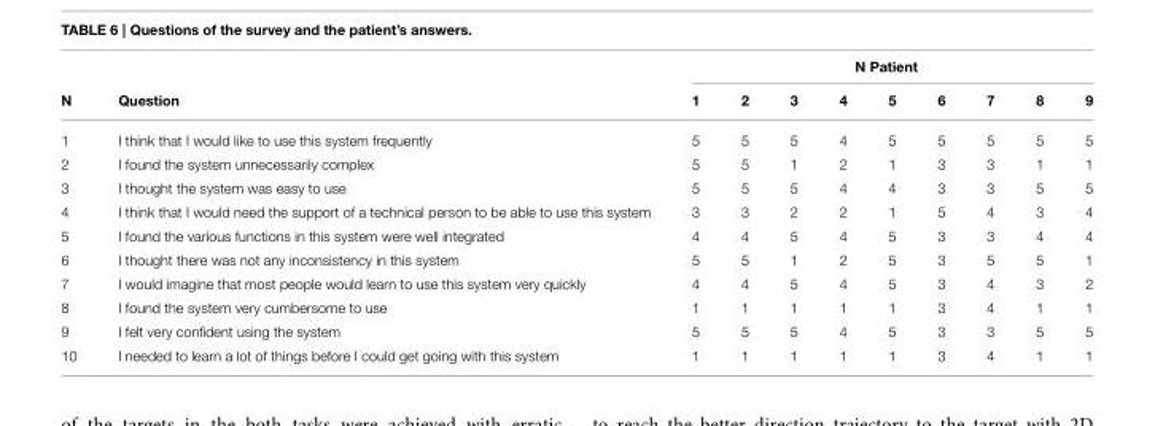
<table><thead><tr><td rowspan="2">N</td><td rowspan="2">Question</td><td colspan="9">N Patient</td></tr><tr><td>1</td><td>2</td><td>3</td><td>4</td><td>5</td><td>6</td><td>7</td><td>8</td><td>9</td></tr></thead><tbody><tr><td>1</td><td>I think that I would like to use this system frequently</td><td>5</td><td>5</td><td>5</td><td>4</td><td>5</td><td>5</td><td>5</td><td>5</td><td>5</td></tr><tr><td>2</td><td>I found the system unnecessarily complex</td><td>5</td><td>5</td><td>1</td><td>2</td><td>1</td><td>3</td><td>3</td><td>1</td><td>1</td></tr><tr><td>3</td><td>I thought the system was easy to use</td><td>5</td><td>5</td><td>5</td><td>4</td><td>4</td><td>3</td><td>3</td><td>5</td><td>5</td></tr><tr><td>4</td><td>I think that I would need the support of a technical person to be able to use this system</td><td>3</td><td>3</td><td>2</td><td>2</td><td>1</td><td>5</td><td>4</td><td>3</td><td>4</td></tr><tr><td>5</td><td>I found the various functions in this system were well integrated</td><td>4</td><td>4</td><td>5</td><td>4</td><td>5</td><td>3</td><td>3</td><td>4</td><td>4</td></tr><tr><td>6</td><td>I thought there was not any inconsistency in this system</td><td>5</td><td>5</td><td>1</td><td>2</td><td>5</td><td>3</td><td>5</td><td>5</td><td>1</td></tr><tr><td>7</td><td>I would imagine that most people would learn to use this system very quickly</td><td>4</td><td>4</td><td>5</td><td>4</td><td>5</td><td>3</td><td>4</td><td>3</td><td>2</td></tr><tr><td>8</td><td>I found the system very cumbersome to use</td><td>1</td><td>1</td><td>1</td><td>1</td><td>1</td><td>3</td><td>4</td><td>1</td><td>1</td></tr><tr><td>9</td><td>I felt very confident using the system</td><td>5</td><td>5</td><td>5</td><td>4</td><td>5</td><td>3</td><td>3</td><td>5</td><td>5</td></tr><tr><td>10</td><td>I needed to learn a lot of things before I could get going with this system</td><td>1</td><td>1</td><td>1</td><td>1</td><td>1</td><td>3</td><td>4</td><td>1</td><td>1</td></tr></tbody></table>